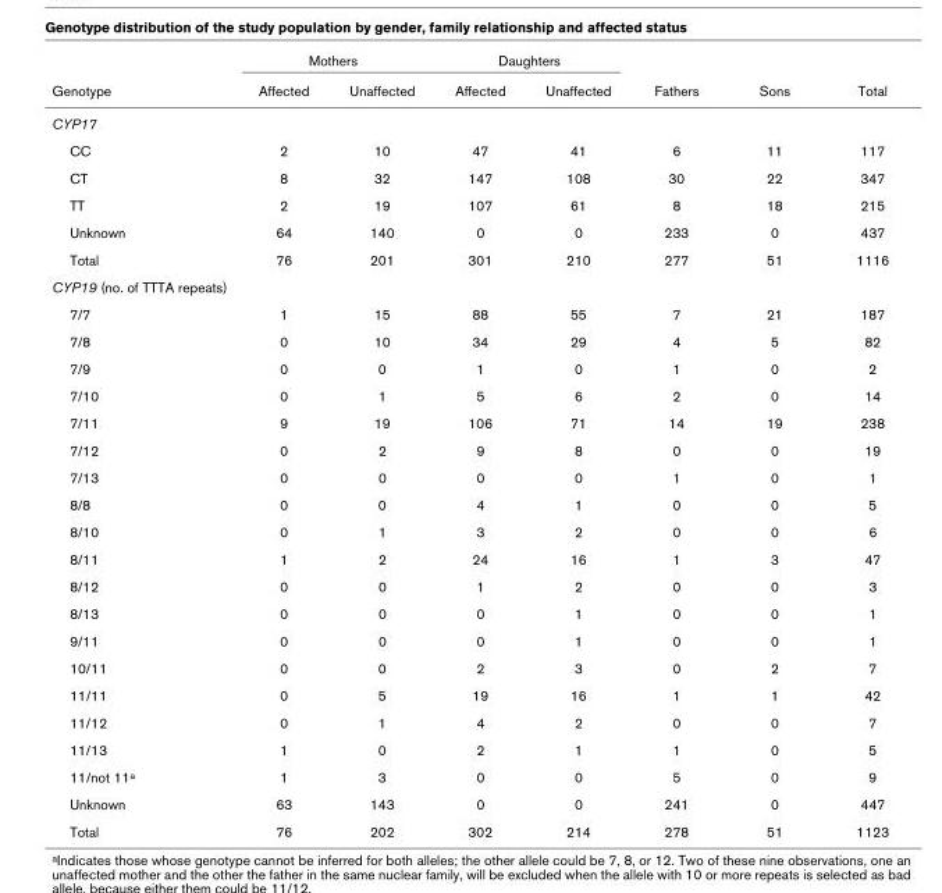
<table><thead><tr><td rowspan="2">Genotype</td><td colspan="2">Mothers</td><td colspan="2">Daughters</td><td rowspan="2">Fathers</td><td rowspan="2">Sons</td><td rowspan="2">Total</td></tr><tr><td>Affected</td><td>Unaffected</td><td>Affected</td><td>Unaffected</td></tr></thead><tbody><tr><td colspan="8">CYP17</td></tr><tr><td>CC</td><td>2</td><td>10</td><td>47</td><td>41</td><td>6</td><td>11</td><td>117</td></tr><tr><td>CT</td><td>8</td><td>32</td><td>147</td><td>108</td><td>30</td><td>22</td><td>347</td></tr><tr><td>TT</td><td>2</td><td>19</td><td>107</td><td>61</td><td>8</td><td>18</td><td>215</td></tr><tr><td>Unknown</td><td>64</td><td>140</td><td>0</td><td>0</td><td>233</td><td>0</td><td>437</td></tr><tr><td>Total</td><td>76</td><td>201</td><td>301</td><td>210</td><td>277</td><td>51</td><td>1116</td></tr><tr><td colspan="8">CYP19 (no. of TTTA repeats)</td></tr><tr><td>7/7</td><td>1</td><td>15</td><td>88</td><td>55</td><td>7</td><td>21</td><td>187</td></tr><tr><td>7/8</td><td>0</td><td>10</td><td>34</td><td>29</td><td>4</td><td>5</td><td>82</td></tr><tr><td>7/9</td><td>0</td><td>0</td><td>1</td><td>0</td><td>1</td><td>0</td><td>2</td></tr><tr><td>7/10</td><td>0</td><td>1</td><td>5</td><td>6</td><td>2</td><td>0</td><td>14</td></tr><tr><td>7/11</td><td>9</td><td>19</td><td>106</td><td>71</td><td>14</td><td>19</td><td>238</td></tr><tr><td>7/12</td><td>0</td><td>2</td><td>9</td><td>8</td><td>0</td><td>0</td><td>19</td></tr><tr><td>7/13</td><td>0</td><td>0</td><td>0</td><td>0</td><td>1</td><td>0</td><td>1</td></tr><tr><td>8/8</td><td>0</td><td>0</td><td>4</td><td>1</td><td>0</td><td>0</td><td>5</td></tr><tr><td>8/10</td><td>0</td><td>1</td><td>3</td><td>2</td><td>0</td><td>0</td><td>6</td></tr><tr><td>8/11</td><td>1</td><td>2</td><td>24</td><td>16</td><td>1</td><td>3</td><td>47</td></tr><tr><td>8/12</td><td>0</td><td>0</td><td>1</td><td>2</td><td>0</td><td>0</td><td>3</td></tr><tr><td>8/13</td><td>0</td><td>0</td><td>0</td><td>1</td><td>0</td><td>0</td><td>1</td></tr><tr><td>9/11</td><td>0</td><td>0</td><td>0</td><td>1</td><td>0</td><td>0</td><td>1</td></tr><tr><td>10/11</td><td>0</td><td>0</td><td>2</td><td>3</td><td>0</td><td>2</td><td>7</td></tr><tr><td>11/11</td><td>0</td><td>5</td><td>19</td><td>16</td><td>1</td><td>1</td><td>42</td></tr><tr><td>11/12</td><td>0</td><td>1</td><td>4</td><td>2</td><td>0</td><td>0</td><td>7</td></tr><tr><td>11/13</td><td>1</td><td>0</td><td>2</td><td>1</td><td>1</td><td>0</td><td>5</td></tr><tr><td>11/not 11a</td><td>1</td><td>3</td><td>0</td><td>0</td><td>5</td><td>0</td><td>9</td></tr><tr><td>Unknown</td><td>63</td><td>143</td><td>0</td><td>0</td><td>241</td><td>0</td><td>447</td></tr><tr><td>Total</td><td>76</td><td>202</td><td>302</td><td>214</td><td>278</td><td>51</td><td>1123</td></tr></tbody></table>